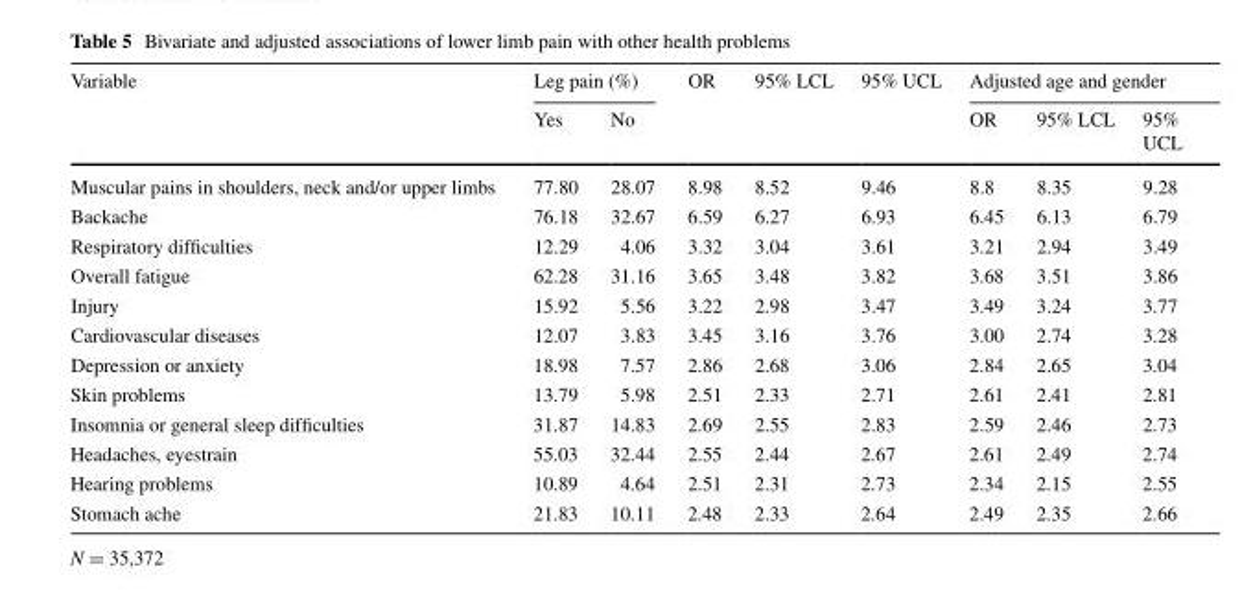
<table><thead><tr><td rowspan="2">Variable</td><td colspan="2">Leg pain (%)</td><td rowspan="2">OR</td><td rowspan="2">95% LCL</td><td rowspan="2">95% UCL</td><td colspan="3">Adjusted age and gender</td></tr><tr><td>Yes</td><td>No</td><td>OR</td><td>95% LCL</td><td>95% UCL</td></tr></thead><tbody><tr><td>Muscular pains in shoulders, neck and/or upper limbs</td><td>77.80</td><td>28.07</td><td>8.98</td><td>8.52</td><td>9.46</td><td>8.8</td><td>8.35</td><td>9.28</td></tr><tr><td>Backache</td><td>76.18</td><td>32.67</td><td>6.59</td><td>6.27</td><td>6.93</td><td>6.45</td><td>6.13</td><td>6.79</td></tr><tr><td>Respiratory difficulties</td><td>12.29</td><td>4.06</td><td>3.32</td><td>3.04</td><td>3.61</td><td>3.21</td><td>2.94</td><td>3.49</td></tr><tr><td>Overall fatigue</td><td>62.28</td><td>31.16</td><td>3.65</td><td>3.48</td><td>3.82</td><td>3.68</td><td>3.51</td><td>3.86</td></tr><tr><td>Injury</td><td>15.92</td><td>5.56</td><td>3.22</td><td>2.98</td><td>3.47</td><td>3.49</td><td>3.24</td><td>3.77</td></tr><tr><td>Cardiovascular diseases</td><td>12.07</td><td>3.83</td><td>3.45</td><td>3.16</td><td>3.76</td><td>3.00</td><td>2.74</td><td>3.28</td></tr><tr><td>Depression or anxiety</td><td>18.98</td><td>7.57</td><td>2.86</td><td>2.68</td><td>3.06</td><td>2.84</td><td>2.65</td><td>3.04</td></tr><tr><td>Skin problems</td><td>13.79</td><td>5.98</td><td>2.51</td><td>2.33</td><td>2.71</td><td>2.61</td><td>2.41</td><td>2.81</td></tr><tr><td>Insomnia or general sleep difficulties</td><td>31.87</td><td>14.83</td><td>2.69</td><td>2.55</td><td>2.83</td><td>2.59</td><td>2.46</td><td>2.73</td></tr><tr><td>Headaches, eyestrain</td><td>55.03</td><td>32.44</td><td>2.55</td><td>2.44</td><td>2.67</td><td>2.61</td><td>2.49</td><td>2.74</td></tr><tr><td>Hearing problems</td><td>10.89</td><td>4.64</td><td>2.51</td><td>2.31</td><td>2.73</td><td>2.34</td><td>2.15</td><td>2.55</td></tr><tr><td>Stomach ache</td><td>21.83</td><td>10.11</td><td>2.48</td><td>2.33</td><td>2.64</td><td>2.49</td><td>2.35</td><td>2.66</td></tr></tbody></table>